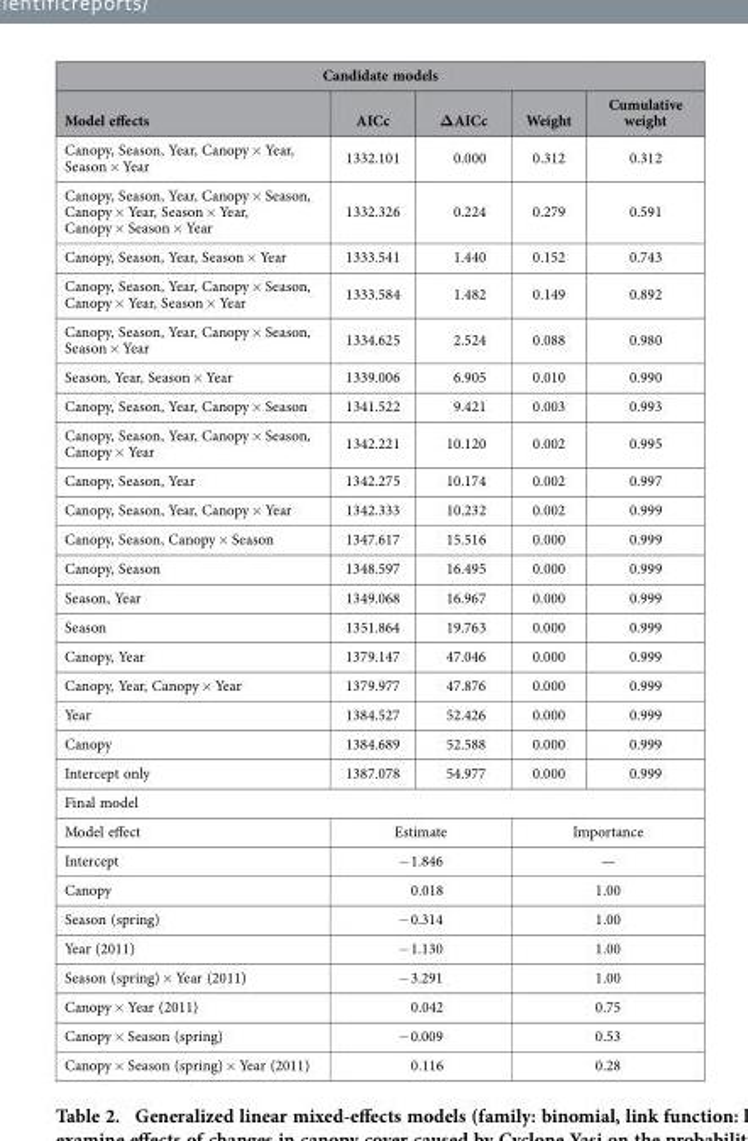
<table><thead><tr><td colspan="5">Candidate models</td></tr><tr><td>Model effects</td><td>AICc</td><td>ΔAICc</td><td>Weight</td><td>Cumulative weight</td></tr></thead><tbody><tr><td>Canopy, Season, Year, Canopy × Year, Season × Year</td><td>1332.101</td><td>0.000</td><td>0.312</td><td>0.312</td></tr><tr><td>Canopy, Season, Year, Canopy × Season, Canopy × Year, Season × Year, Canopy × Season × Year</td><td>1332.326</td><td>0.224</td><td>0.279</td><td>0.591</td></tr><tr><td>Canopy, Season, Year, Season × Year</td><td>1333.541</td><td>1.440</td><td>0.152</td><td>0.743</td></tr><tr><td>Canopy, Season, Year, Canopy × Season, Canopy × Year, Season × Year</td><td>1333.584</td><td>1.482</td><td>0.149</td><td>0.892</td></tr><tr><td>Canopy, Season, Year, Canopy × Season, Season × Year</td><td>1334.625</td><td>2.524</td><td>0.088</td><td>0.980</td></tr><tr><td>Season, Year, Season × Year</td><td>1339.006</td><td>6.905</td><td>0.010</td><td>0.990</td></tr><tr><td>Canopy, Season, Year, Canopy × Season</td><td>1341.522</td><td>9.421</td><td>0.003</td><td>0.993</td></tr><tr><td>Canopy, Season, Year, Canopy × Season, Canopy × Year</td><td>1342.221</td><td>10.120</td><td>0.002</td><td>0.995</td></tr><tr><td>Canopy, Season, Year</td><td>1342.275</td><td>10.174</td><td>0.002</td><td>0.997</td></tr><tr><td>Canopy, Season, Year, Canopy × Year</td><td>1342.333</td><td>10.232</td><td>0.002</td><td>0.999</td></tr><tr><td>Canopy, Season, Canopy × Season</td><td>1347.617</td><td>15.516</td><td>0.000</td><td>0.999</td></tr><tr><td>Canopy, Season</td><td>1348.597</td><td>16.495</td><td>0.000</td><td>0.999</td></tr><tr><td>Season, Year</td><td>1349.068</td><td>16.967</td><td>0.000</td><td>0.999</td></tr><tr><td>Season</td><td>1351.864</td><td>19.763</td><td>0.000</td><td>0.999</td></tr><tr><td>Canopy, Year</td><td>1379.147</td><td>47.046</td><td>0.000</td><td>0.999</td></tr><tr><td>Canopy, Year, Canopy × Year</td><td>1379.977</td><td>47.876</td><td>0.000</td><td>0.999</td></tr><tr><td>Year</td><td>1384.527</td><td>52.426</td><td>0.000</td><td>0.999</td></tr><tr><td>Canopy</td><td>1384.689</td><td>52.588</td><td>0.000</td><td>0.999</td></tr><tr><td>Intercept only</td><td>1387.078</td><td>54.977</td><td>0.000</td><td>0.999</td></tr><tr><td colspan="5">Final model</td></tr><tr><td>Model effect</td><td colspan="2">Estimate</td><td colspan="2">Importance</td></tr><tr><td>Intercept</td><td colspan="2">− 1.846</td><td colspan="2">—</td></tr><tr><td>Canopy</td><td colspan="2">0.018</td><td colspan="2">1.00</td></tr><tr><td>Season (spring)</td><td colspan="2">− 0.314</td><td colspan="2">1.00</td></tr><tr><td>Year (2011)</td><td colspan="2">− 1.130</td><td colspan="2">1.00</td></tr><tr><td>Season (spring) × Year (2011)</td><td colspan="2">− 3.291</td><td colspan="2">1.00</td></tr><tr><td>Canopy × Year (2011)</td><td colspan="2">0.042</td><td colspan="2">0.75</td></tr><tr><td>Canopy × Season (spring)</td><td colspan="2">− 0.009</td><td colspan="2">0.53</td></tr><tr><td>Canopy × Season (spring) × Year (2011)</td><td colspan="2">0.116</td><td colspan="2">0.28</td></tr></tbody></table>